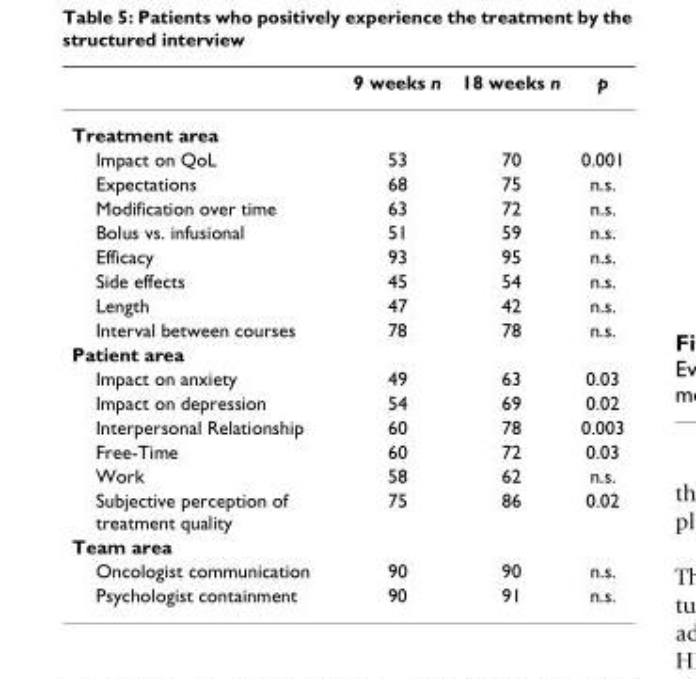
<table><thead><tr><td></td><td>9 weeks n</td><td>18 weeks n</td><td>p</td></tr></thead><tbody><tr><td colspan="4">Treatment area</td></tr><tr><td>Impact on QoL</td><td>53</td><td>70</td><td>0.001</td></tr><tr><td>Expectations</td><td>68</td><td>75</td><td>n.s.</td></tr><tr><td>Modification over time</td><td>63</td><td>72</td><td>n.s.</td></tr><tr><td>Bolus vs. infusional</td><td>51</td><td>59</td><td>n.s.</td></tr><tr><td>Efficacy</td><td>93</td><td>95</td><td>n.s.</td></tr><tr><td>Side effects</td><td>45</td><td>54</td><td>n.s.</td></tr><tr><td>Length</td><td>47</td><td>42</td><td>n.s.</td></tr><tr><td>Interval between courses</td><td>78</td><td>78</td><td>n.s.</td></tr><tr><td colspan="4">Patient area</td></tr><tr><td>Impact on anxiety</td><td>49</td><td>63</td><td>0.03</td></tr><tr><td>Impact on depression</td><td>54</td><td>69</td><td>0.02</td></tr><tr><td>Interpersonal Relationship</td><td>60</td><td>78</td><td>0.003</td></tr><tr><td>Free-Time</td><td>60</td><td>72</td><td>0.03</td></tr><tr><td>Work</td><td>58</td><td>62</td><td>n.s.</td></tr><tr><td>Subjective perception of treatment quality</td><td>75</td><td>86</td><td>0.02</td></tr><tr><td colspan="4">Team area</td></tr><tr><td>Oncologist communication</td><td>90</td><td>90</td><td>n.s.</td></tr><tr><td>Psychologist containment</td><td>90</td><td>91</td><td>n.s.</td></tr></tbody></table>